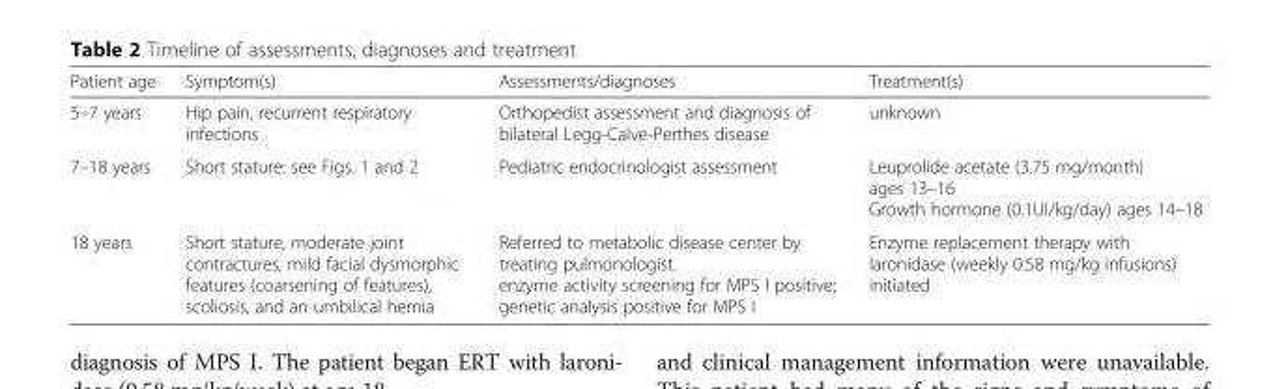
<table><thead><tr><td>Patient age</td><td>Symptom(s)</td><td>Assessments/diagnoses</td><td>Treatment(s)</td></tr></thead><tbody><tr><td>5–7 years</td><td>Hip pain, recurrent respiratory infections</td><td>Orthopedist assessment and diagnosis of bilateral Legg-Calve-Perthes disease</td><td>unknown</td></tr><tr><td>7–18 years</td><td>Short stature: see Figs. 1 and 2</td><td>Pediatric endocrinologist assessment</td><td>Leuprolide acetate (3.75 mg/month) ages 13–16 Growth hormone (0.1UI/kg/day) ages 14–18</td></tr><tr><td>18 years</td><td>Short stature, moderate joint contractures, mild facial dysmorphic features (coarsening of features), scoliosis, and an umbilical hernia</td><td>Referred to metabolic disease center by treating pulmonologist. enzyme activity screening for MPS I positive; genetic analysis positive for MPS I</td><td>Enzyme replacement therapy with laronidase (weekly 0.58 mg/kg infusions) initiated</td></tr></tbody></table>